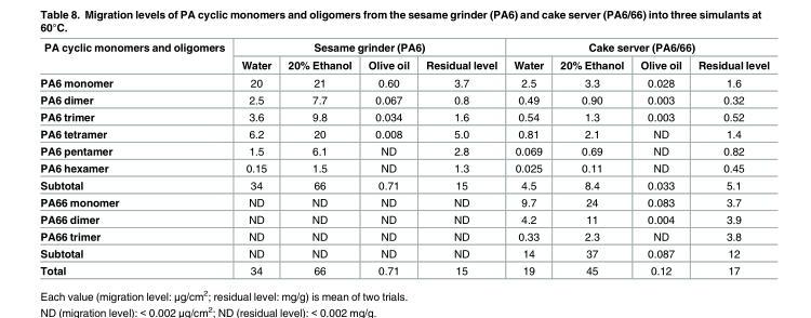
<table><thead><tr><td rowspan="2">PA cyclic monomers and oligomers</td><td colspan="4">Sesame grinder (PA6)</td><td colspan="4">Cake server (PA6/66)</td></tr><tr><td>Water</td><td>20% Ethanol</td><td>Olive oil</td><td>Residual level</td><td>Water</td><td>20% Ethanol</td><td>Olive oil</td><td>Residual level</td></tr></thead><tbody><tr><td>PA6 monomer</td><td>20</td><td>21</td><td>0.60</td><td>3.7</td><td>2.5</td><td>3.3</td><td>0.028</td><td>1.6</td></tr><tr><td>PA6 dimer</td><td>2.5</td><td>7.7</td><td>0.067</td><td>0.8</td><td>0.49</td><td>0.90</td><td>0.003</td><td>0.32</td></tr><tr><td>PA6 trimer</td><td>3.6</td><td>9.8</td><td>0.034</td><td>1.6</td><td>0.54</td><td>1.3</td><td>0.003</td><td>0.52</td></tr><tr><td>PA6 tetramer</td><td>6.2</td><td>20</td><td>0.008</td><td>5.0</td><td>0.81</td><td>2.1</td><td>ND</td><td>1.4</td></tr><tr><td>PA6 pentamer</td><td>1.5</td><td>6.1</td><td>ND</td><td>2.8</td><td>0.069</td><td>0.69</td><td>ND</td><td>0.82</td></tr><tr><td>PA6 hexamer</td><td>0.15</td><td>1.5</td><td>ND</td><td>1.3</td><td>0.025</td><td>0.11</td><td>ND</td><td>0.45</td></tr><tr><td>Subtotal</td><td>34</td><td>66</td><td>0.71</td><td>15</td><td>4.5</td><td>8.4</td><td>0.033</td><td>5.1</td></tr><tr><td>PA66 monomer</td><td>ND</td><td>ND</td><td>ND</td><td>ND</td><td>9.7</td><td>24</td><td>0.083</td><td>3.7</td></tr><tr><td>PA66 dimer</td><td>ND</td><td>ND</td><td>ND</td><td>ND</td><td>4.2</td><td>11</td><td>0.004</td><td>3.9</td></tr><tr><td>PA66 trimer</td><td>ND</td><td>ND</td><td>ND</td><td>ND</td><td>0.33</td><td>2.3</td><td>ND</td><td>3.8</td></tr><tr><td>Subtotal</td><td>ND</td><td>ND</td><td>ND</td><td>ND</td><td>14</td><td>37</td><td>0.087</td><td>12</td></tr><tr><td>Total</td><td>34</td><td>66</td><td>0.71</td><td>15</td><td>19</td><td>45</td><td>0.12</td><td>17</td></tr></tbody></table>